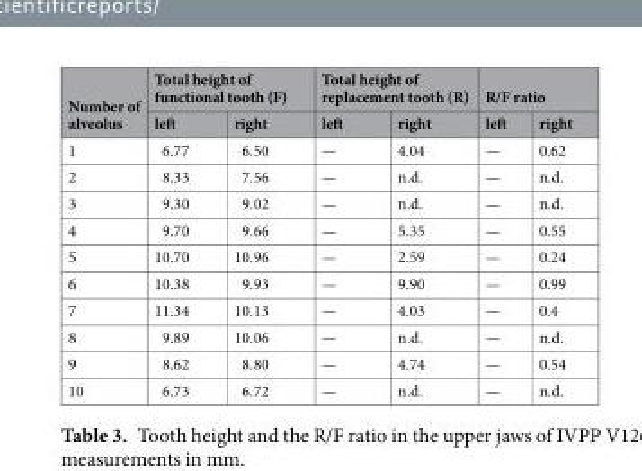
<table><thead><tr><td rowspan="2">Number of alveolus</td><td colspan="2">Total height of functional tooth (F)</td><td colspan="2">Total height of replacement tooth (R)</td><td colspan="2">R/F ratio</td></tr><tr><td>left</td><td>right</td><td>left</td><td>right</td><td>left</td><td>right</td></tr></thead><tbody><tr><td>1</td><td>6.77</td><td>6.50</td><td>—</td><td>4.04</td><td>—</td><td>0.62</td></tr><tr><td>2</td><td>8.33</td><td>7.56</td><td>—</td><td>n.d.</td><td>—</td><td>n.d.</td></tr><tr><td>3</td><td>9.30</td><td>9.02</td><td>—</td><td>n.d.</td><td>—</td><td>n.d.</td></tr><tr><td>4</td><td>9.70</td><td>9.66</td><td>—</td><td>5.35</td><td>—</td><td>0.55</td></tr><tr><td>5</td><td>10.70</td><td>10.96</td><td>—</td><td>2.59</td><td>—</td><td>0.24</td></tr><tr><td>6</td><td>10.38</td><td>9.93</td><td>—</td><td>9.90</td><td>—</td><td>0.99</td></tr><tr><td>7</td><td>11.34</td><td>10.13</td><td>—</td><td>4.03</td><td>—</td><td>0.4</td></tr><tr><td>8</td><td>9.89</td><td>10.06</td><td>—</td><td>n.d.</td><td>—</td><td>n.d.</td></tr><tr><td>9</td><td>8.62</td><td>8.80</td><td>—</td><td>4.74</td><td>—</td><td>0.54</td></tr><tr><td>10</td><td>6.73</td><td>6.72</td><td>—</td><td>n.d.</td><td>—</td><td>n.d.</td></tr></tbody></table>